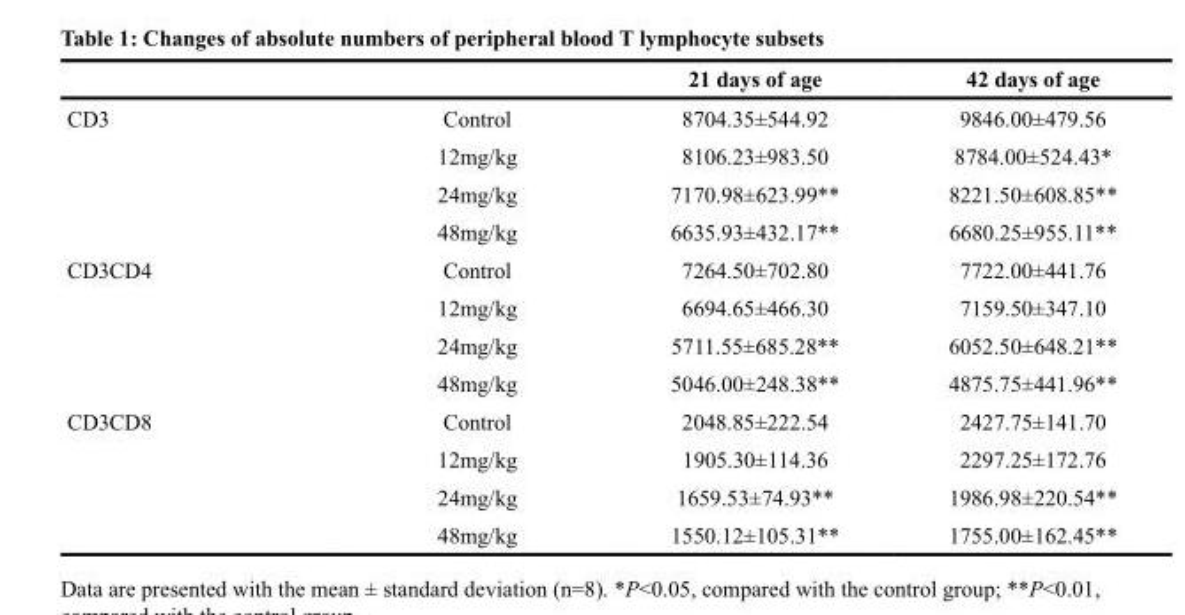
<table><thead><tr><td></td><td></td><td>21 days of age</td><td>42 days of age</td></tr></thead><tbody><tr><td rowspan="4">CD3</td><td>Control</td><td>8704.35±544.92</td><td>9846.00±479.56</td></tr><tr><td>12mg/kg</td><td>8106.23±983.50</td><td>8784.00±524.43*</td></tr><tr><td>24mg/kg</td><td>7170.98±623.99**</td><td>8221.50±608.85**</td></tr><tr><td>48mg/kg</td><td>6635.93±432.17**</td><td>6680.25±955.11**</td></tr><tr><td rowspan="4">CD3CD4</td><td>Control</td><td>7264.50±702.80</td><td>7722.00±441.76</td></tr><tr><td>12mg/kg</td><td>6694.65±466.30</td><td>7159.50±347.10</td></tr><tr><td>24mg/kg</td><td>5711.55±685.28**</td><td>6052.50±648.21**</td></tr><tr><td>48mg/kg</td><td>5046.00±248.38**</td><td>4875.75±441.96**</td></tr><tr><td rowspan="4">CD3CD8</td><td>Control</td><td>2048.85±222.54</td><td>2427.75±141.70</td></tr><tr><td>12mg/kg</td><td>1905.30±114.36</td><td>2297.25±172.76</td></tr><tr><td>24mg/kg</td><td>1659.53±74.93**</td><td>1986.98±220.54**</td></tr><tr><td>48mg/kg</td><td>1550.12±105.31**</td><td>1755.00±162.45**</td></tr></tbody></table>